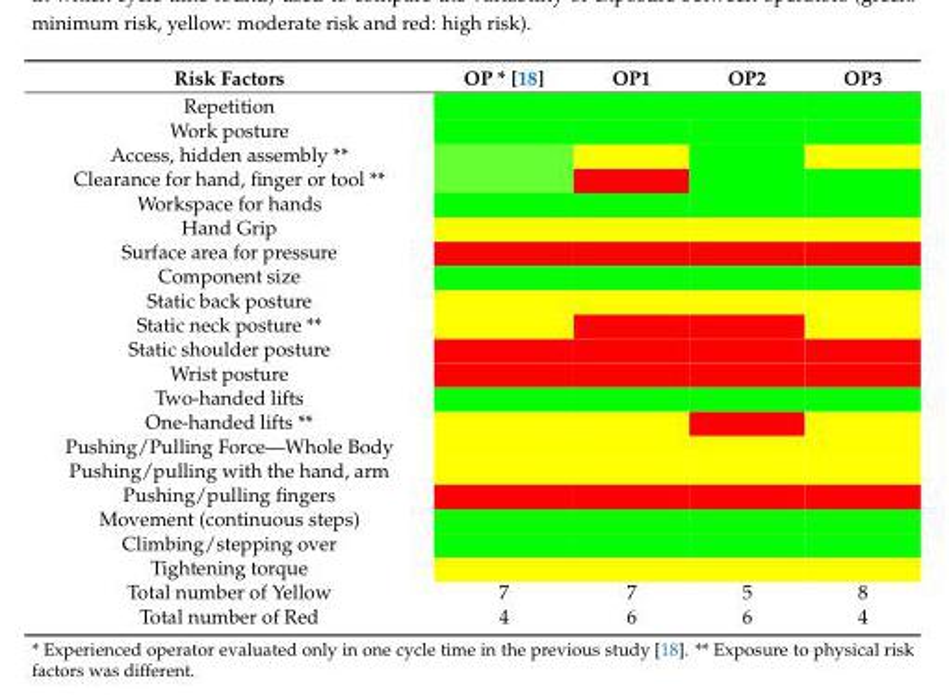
<table><thead><tr><td>Risk Factors</td><td>OP * [18]</td><td>OP1</td><td>OP2</td><td>OP3</td></tr></thead><tbody><tr><td colspan="5">Repetition</td></tr><tr><td colspan="5">Work posture</td></tr><tr><td colspan="5">Access, hidden assembly **</td></tr><tr><td colspan="5">Clearance for hand, finger or tool **</td></tr><tr><td colspan="5">Workspace for hands</td></tr><tr><td colspan="5">Hand Grip</td></tr><tr><td colspan="5">Surface area for pressure</td></tr><tr><td colspan="5">Component size</td></tr><tr><td colspan="5">Static back posture</td></tr><tr><td colspan="5">Static neck posture **</td></tr><tr><td colspan="5">Static shoulder posture</td></tr><tr><td colspan="5">Wrist posture</td></tr><tr><td colspan="5">Two-handed lifts</td></tr><tr><td colspan="5">One-handed lifts **</td></tr><tr><td colspan="5">Pushing/Pulling Force—Whole Body</td></tr><tr><td colspan="5">Pushing/pulling with the hand, arm</td></tr><tr><td colspan="5">Pushing/pulling fingers</td></tr><tr><td colspan="5">Movement (continuous steps)</td></tr><tr><td colspan="5">Climbing/stepping over</td></tr><tr><td colspan="5">Tightening torque</td></tr><tr><td>Total number of Yellow</td><td>7</td><td>7</td><td>5</td><td>8</td></tr><tr><td>Total number of Red</td><td>4</td><td>6</td><td>6</td><td>4</td></tr></tbody></table>